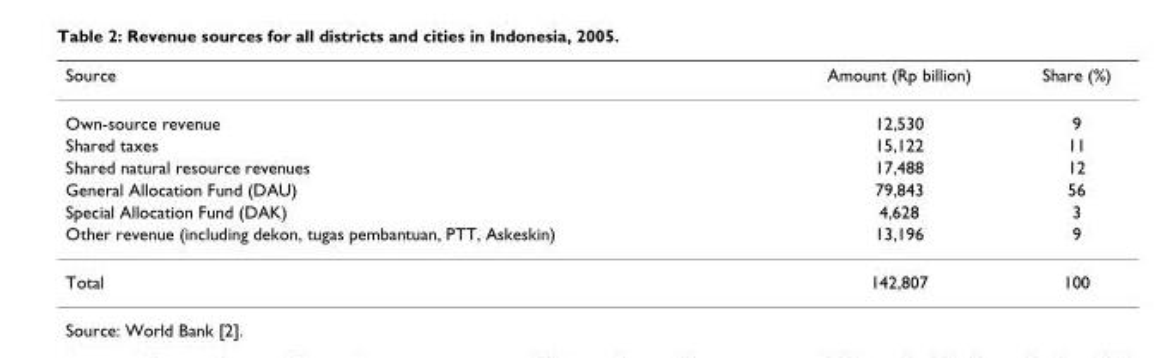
<table><thead><tr><td>Source</td><td>Amount (Rp billion)</td><td>Share (%)</td></tr></thead><tbody><tr><td>Own-source revenue</td><td>12,530</td><td>9</td></tr><tr><td>Shared taxes</td><td>15,122</td><td>11</td></tr><tr><td>Shared natural resource revenues</td><td>17,488</td><td>12</td></tr><tr><td>General Allocation Fund (DAU)</td><td>79,843</td><td>56</td></tr><tr><td>Special Allocation Fund (DAK)</td><td>4,628</td><td>3</td></tr><tr><td>Other revenue (including dekon, tugas pembantuan, PTT, Askeskin)</td><td>13,196</td><td>9</td></tr><tr><td>Total</td><td>142,807</td><td>100</td></tr></tbody></table>